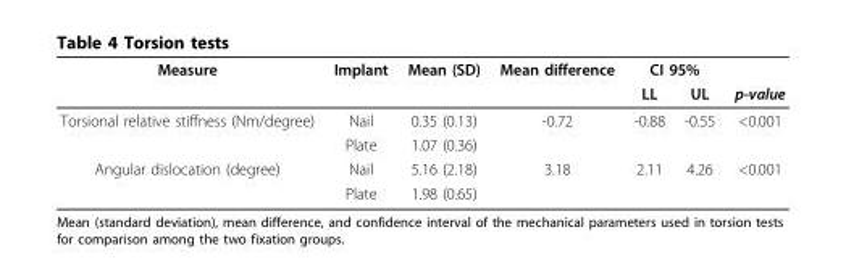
<table><thead><tr><td rowspan="2">Measure</td><td rowspan="2">Implant</td><td rowspan="2">Mean (SD)</td><td rowspan="2">Mean difference</td><td colspan="2">CI 95%</td><td rowspan="2">p-value</td></tr><tr><td>LL</td><td>UL</td></tr></thead><tbody><tr><td rowspan="2">Torsional relative stiffness (Nm/degree)</td><td>Nail</td><td>0.35 (0.13)</td><td>-0.72</td><td>-0.88</td><td>-0.55</td><td>&lt;0.001</td></tr><tr><td>Plate</td><td>1.07 (0.36)</td><td></td><td></td><td></td><td></td></tr><tr><td rowspan="2">Angular dislocation (degree)</td><td>Nail</td><td>5.16 (2.18)</td><td>3.18</td><td>2.11</td><td>4.26</td><td>&lt;0.001</td></tr><tr><td>Plate</td><td>1.98 (0.65)</td><td></td><td></td><td></td><td></td></tr></tbody></table>